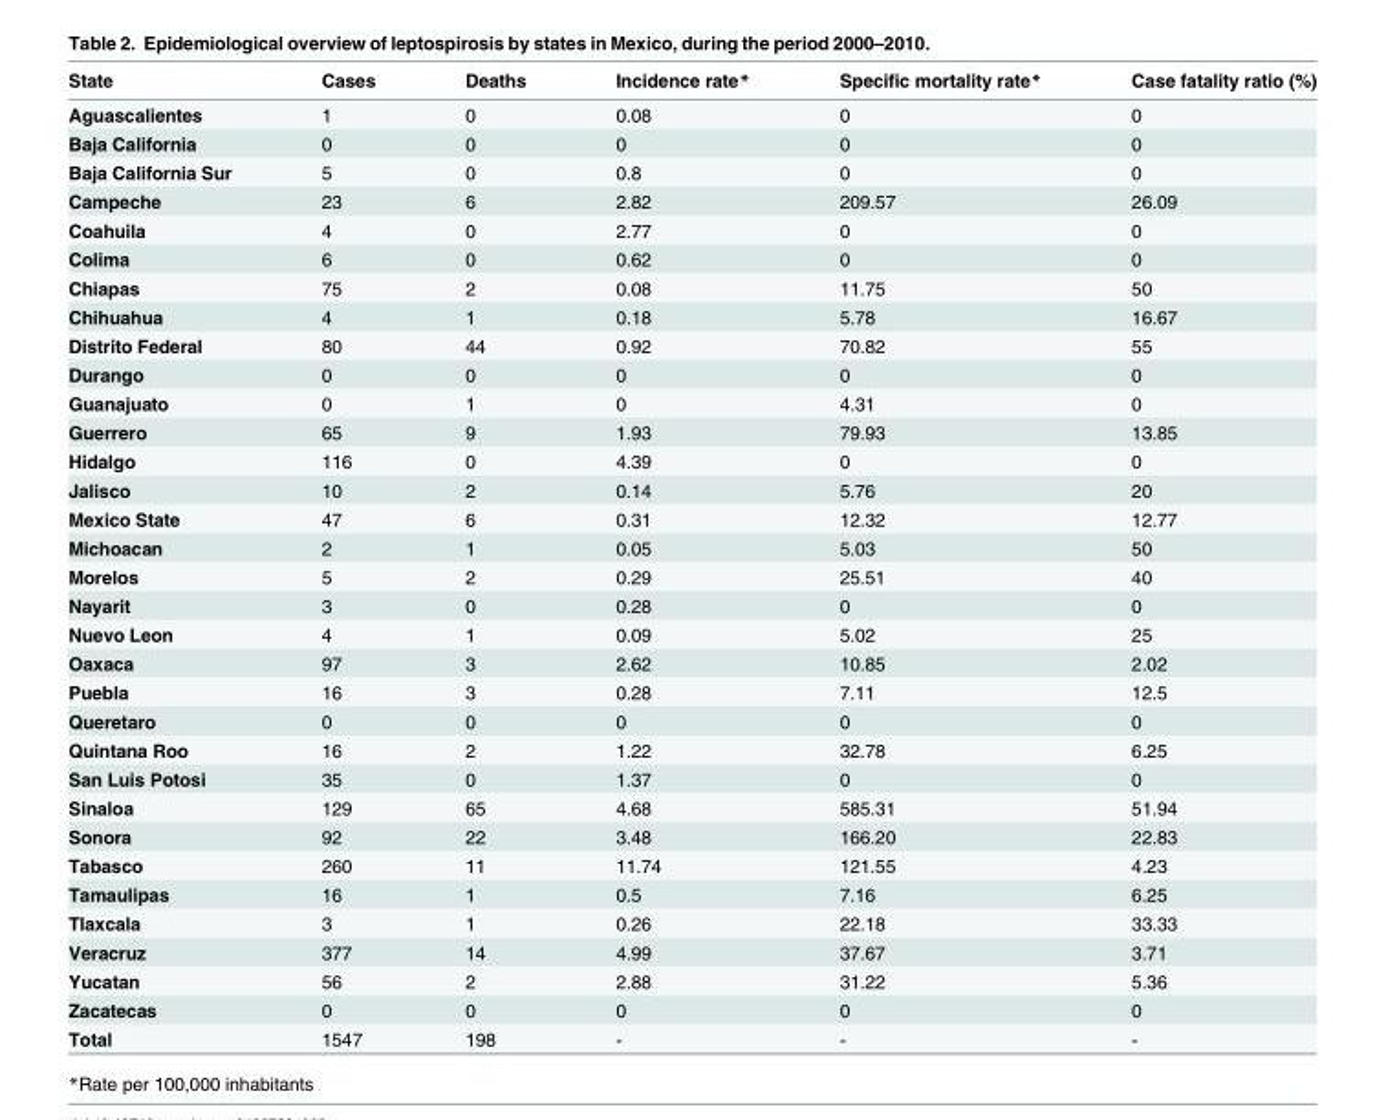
<table><thead><tr><td>State</td><td>Cases</td><td>Deaths</td><td>Incidence rate*</td><td>Specific mortality rate*</td><td>Case fatality ratio (%)</td></tr></thead><tbody><tr><td>Aguascalientes</td><td>1</td><td>0</td><td>0.08</td><td>0</td><td>0</td></tr><tr><td>Baja California</td><td>0</td><td>0</td><td>0</td><td>0</td><td>0</td></tr><tr><td>Baja California Sur</td><td>5</td><td>0</td><td>0.8</td><td>0</td><td>0</td></tr><tr><td>Campeche</td><td>23</td><td>6</td><td>2.82</td><td>209.57</td><td>26.09</td></tr><tr><td>Coahuila</td><td>4</td><td>0</td><td>2.77</td><td>0</td><td>0</td></tr><tr><td>Colima</td><td>6</td><td>0</td><td>0.62</td><td>0</td><td>0</td></tr><tr><td>Chiapas</td><td>75</td><td>2</td><td>0.08</td><td>11.75</td><td>50</td></tr><tr><td>Chihuahua</td><td>4</td><td>1</td><td>0.18</td><td>5.78</td><td>16.67</td></tr><tr><td>Distrito Federal</td><td>80</td><td>44</td><td>0.92</td><td>70.82</td><td>55</td></tr><tr><td>Durango</td><td>0</td><td>0</td><td>0</td><td>0</td><td>0</td></tr><tr><td>Guanajuato</td><td>0</td><td>1</td><td>0</td><td>4.31</td><td>0</td></tr><tr><td>Guerrero</td><td>65</td><td>9</td><td>1.93</td><td>79.93</td><td>13.85</td></tr><tr><td>Hidalgo</td><td>116</td><td>0</td><td>4.39</td><td>0</td><td>0</td></tr><tr><td>Jalisco</td><td>10</td><td>2</td><td>0.14</td><td>5.76</td><td>20</td></tr><tr><td>Mexico State</td><td>47</td><td>6</td><td>0.31</td><td>12.32</td><td>12.77</td></tr><tr><td>Michoacan</td><td>2</td><td>1</td><td>0.05</td><td>5.03</td><td>50</td></tr><tr><td>Morelos</td><td>5</td><td>2</td><td>0.29</td><td>25.51</td><td>40</td></tr><tr><td>Nayarit</td><td>3</td><td>0</td><td>0.28</td><td>0</td><td>0</td></tr><tr><td>Nuevo Leon</td><td>4</td><td>1</td><td>0.09</td><td>5.02</td><td>25</td></tr><tr><td>Oaxaca</td><td>97</td><td>3</td><td>2.62</td><td>10.85</td><td>2.02</td></tr><tr><td>Puebla</td><td>16</td><td>3</td><td>0.28</td><td>7.11</td><td>12.5</td></tr><tr><td>Queretaro</td><td>0</td><td>0</td><td>0</td><td>0</td><td>0</td></tr><tr><td>Quintana Roo</td><td>16</td><td>2</td><td>1.22</td><td>32.78</td><td>6.25</td></tr><tr><td>San Luis Potosi</td><td>35</td><td>0</td><td>1.37</td><td>0</td><td>0</td></tr><tr><td>Sinaloa</td><td>129</td><td>65</td><td>4.68</td><td>585.31</td><td>51.94</td></tr><tr><td>Sonora</td><td>92</td><td>22</td><td>3.48</td><td>166.20</td><td>22.83</td></tr><tr><td>Tabasco</td><td>260</td><td>11</td><td>11.74</td><td>121.55</td><td>4.23</td></tr><tr><td>Tamaulipas</td><td>16</td><td>1</td><td>0.5</td><td>7.16</td><td>6.25</td></tr><tr><td>Tlaxcala</td><td>3</td><td>1</td><td>0.26</td><td>22.18</td><td>33.33</td></tr><tr><td>Veracruz</td><td>377</td><td>14</td><td>4.99</td><td>37.67</td><td>3.71</td></tr><tr><td>Yucatan</td><td>56</td><td>2</td><td>2.88</td><td>31.22</td><td>5.36</td></tr><tr><td>Zacatecas</td><td>0</td><td>0</td><td>0</td><td>0</td><td>0</td></tr><tr><td>Total</td><td>1547</td><td>198</td><td>-</td><td>-</td><td>-</td></tr></tbody></table>